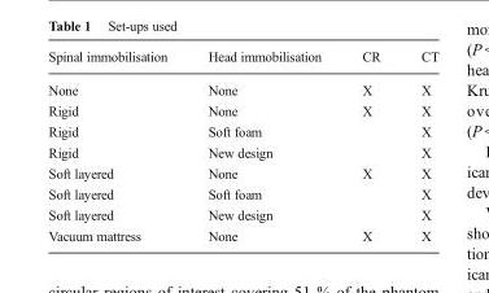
<table><thead><tr><td>Spinal immobilisation</td><td>Head immobilisation</td><td>CR</td><td>CT</td></tr></thead><tbody><tr><td>None</td><td>None</td><td>X</td><td>X</td></tr><tr><td>Rigid</td><td>None</td><td>X</td><td>X</td></tr><tr><td>Rigid</td><td>Soft foam</td><td></td><td>X</td></tr><tr><td>Rigid</td><td>New design</td><td></td><td>X</td></tr><tr><td>Soft layered</td><td>None</td><td>X</td><td>X</td></tr><tr><td>Soft layered</td><td>Soft foam</td><td></td><td>X</td></tr><tr><td>Soft layered</td><td>New design</td><td></td><td>X</td></tr><tr><td>Vacuum mattress</td><td>None</td><td>X</td><td>X</td></tr></tbody></table>